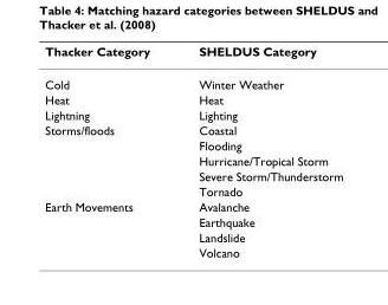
<table><thead><tr><td>Thacker Category</td><td>SHELDUS Category</td></tr></thead><tbody><tr><td>Cold</td><td>Winter Weather</td></tr><tr><td>Heat</td><td>Heat</td></tr><tr><td>Lightning</td><td>Lighting</td></tr><tr><td rowspan="5">Storms/floods</td><td>Coastal</td></tr><tr><td>Flooding</td></tr><tr><td>Hurricane/Tropical Storm</td></tr><tr><td>Severe Storm/Thunderstorm</td></tr><tr><td>Tornado</td></tr><tr><td rowspan="4">Earth Movements</td><td>Avalanche</td></tr><tr><td>Earthquake</td></tr><tr><td>Landslide</td></tr><tr><td>Volcano</td></tr></tbody></table>